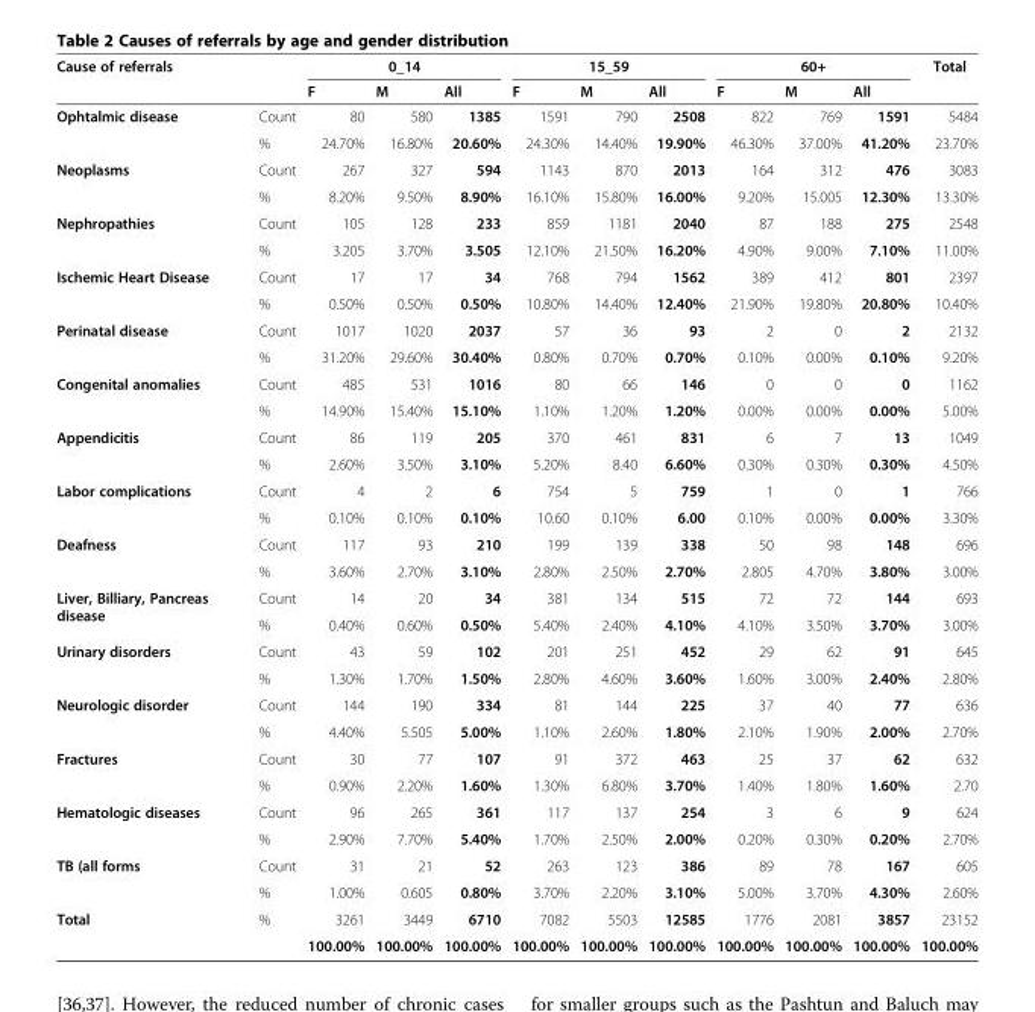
<table><thead><tr><td colspan="2">Cause of referrals</td><td colspan="3">0_14</td><td colspan="3">15_59</td><td colspan="3">60+</td><td rowspan="2">Total</td></tr><tr><td></td><td></td><td>F</td><td>M</td><td>All</td><td>F</td><td>M</td><td>All</td><td>F</td><td>M</td><td>All</td></tr></thead><tbody><tr><td rowspan="2">Ophtalmic disease</td><td>Count</td><td>80</td><td>580</td><td>1385</td><td>1591</td><td>790</td><td>2508</td><td>822</td><td>769</td><td>1591</td><td>5484</td></tr><tr><td>%</td><td>24.70%</td><td>16.80%</td><td>20.60%</td><td>24.30%</td><td>14.40%</td><td>19.90%</td><td>46.30%</td><td>37.00%</td><td>41.20%</td><td>23.70%</td></tr><tr><td rowspan="2">Neoplasms</td><td>Count</td><td>267</td><td>327</td><td>594</td><td>1143</td><td>870</td><td>2013</td><td>164</td><td>312</td><td>476</td><td>3083</td></tr><tr><td>%</td><td>8.20%</td><td>9.50%</td><td>8.90%</td><td>16.10%</td><td>15.80%</td><td>16.00%</td><td>9.20%</td><td>15.005</td><td>12.30%</td><td>13.30%</td></tr><tr><td rowspan="2">Nephropathies</td><td>Count</td><td>105</td><td>128</td><td>233</td><td>859</td><td>1181</td><td>2040</td><td>87</td><td>188</td><td>275</td><td>2548</td></tr><tr><td>%</td><td>3.205</td><td>3.70%</td><td>3.505</td><td>12.10%</td><td>21.50%</td><td>16.20%</td><td>4.90%</td><td>9.00%</td><td>7.10%</td><td>11.00%</td></tr><tr><td rowspan="2">Ischemic Heart Disease</td><td>Count</td><td>17</td><td>17</td><td>34</td><td>768</td><td>794</td><td>1562</td><td>389</td><td>412</td><td>801</td><td>2397</td></tr><tr><td>%</td><td>0.50%</td><td>0.50%</td><td>0.50%</td><td>10.80%</td><td>14.40%</td><td>12.40%</td><td>21.90%</td><td>19.80%</td><td>20.80%</td><td>10.40%</td></tr><tr><td rowspan="2">Perinatal disease</td><td>Count</td><td>1017</td><td>1020</td><td>2037</td><td>57</td><td>36</td><td>93</td><td>2</td><td>0</td><td>2</td><td>2132</td></tr><tr><td>%</td><td>31.20%</td><td>29.60%</td><td>30.40%</td><td>0.80%</td><td>0.70%</td><td>0.70%</td><td>0.10%</td><td>0.00%</td><td>0.10%</td><td>9.20%</td></tr><tr><td rowspan="2">Congenital anomalies</td><td>Count</td><td>485</td><td>531</td><td>1016</td><td>80</td><td>66</td><td>146</td><td>0</td><td>0</td><td>0</td><td>1162</td></tr><tr><td>%</td><td>14.90%</td><td>15.40%</td><td>15.10%</td><td>1.10%</td><td>1.20%</td><td>1.20%</td><td>0.00%</td><td>0.00%</td><td>0.00%</td><td>5.00%</td></tr><tr><td rowspan="2">Appendicitis</td><td>Count</td><td>86</td><td>119</td><td>205</td><td>370</td><td>461</td><td>831</td><td>6</td><td>7</td><td>13</td><td>1049</td></tr><tr><td>%</td><td>2.60%</td><td>3.50%</td><td>3.10%</td><td>5.20%</td><td>8.40</td><td>6.60%</td><td>0.30%</td><td>0.30%</td><td>0.30%</td><td>4.50%</td></tr><tr><td rowspan="2">Labor complications</td><td>Count</td><td>4</td><td>2</td><td>6</td><td>754</td><td>5</td><td>759</td><td>1</td><td>0</td><td>1</td><td>766</td></tr><tr><td>%</td><td>0.10%</td><td>0.10%</td><td>0.10%</td><td>10.60</td><td>0.10%</td><td>6.00</td><td>0.10%</td><td>0.00%</td><td>0.00%</td><td>3.30%</td></tr><tr><td rowspan="2">Deafness</td><td>Count</td><td>117</td><td>93</td><td>210</td><td>199</td><td>139</td><td>338</td><td>50</td><td>98</td><td>148</td><td>696</td></tr><tr><td>%</td><td>3.60%</td><td>2.70%</td><td>3.10%</td><td>2.80%</td><td>2.50%</td><td>2.70%</td><td>2.805</td><td>4.70%</td><td>3.80%</td><td>3.00%</td></tr><tr><td rowspan="2">Liver, Billiary, Pancreas disease</td><td>Count</td><td>14</td><td>20</td><td>34</td><td>381</td><td>134</td><td>515</td><td>72</td><td>72</td><td>144</td><td>693</td></tr><tr><td>%</td><td>0.40%</td><td>0.60%</td><td>0.50%</td><td>5.40%</td><td>2.40%</td><td>4.10%</td><td>4.10%</td><td>3.50%</td><td>3.70%</td><td>3.00%</td></tr><tr><td rowspan="2">Urinary disorders</td><td>Count</td><td>43</td><td>59</td><td>102</td><td>201</td><td>251</td><td>452</td><td>29</td><td>62</td><td>91</td><td>645</td></tr><tr><td>%</td><td>1.30%</td><td>1.70%</td><td>1.50%</td><td>2.80%</td><td>4.60%</td><td>3.60%</td><td>1.60%</td><td>3.00%</td><td>2.40%</td><td>2.80%</td></tr><tr><td rowspan="2">Neurologic disorder</td><td>Count</td><td>144</td><td>190</td><td>334</td><td>81</td><td>144</td><td>225</td><td>37</td><td>40</td><td>77</td><td>636</td></tr><tr><td>%</td><td>4.40%</td><td>5.505</td><td>5.00%</td><td>1.10%</td><td>2.60%</td><td>1.80%</td><td>2.10%</td><td>1.90%</td><td>2.00%</td><td>2.70%</td></tr><tr><td rowspan="2">Fractures</td><td>Count</td><td>30</td><td>77</td><td>107</td><td>91</td><td>372</td><td>463</td><td>25</td><td>37</td><td>62</td><td>632</td></tr><tr><td>%</td><td>0.90%</td><td>2.20%</td><td>1.60%</td><td>1.30%</td><td>6.80%</td><td>3.70%</td><td>1.40%</td><td>1.80%</td><td>1.60%</td><td>2.70</td></tr><tr><td rowspan="2">Hematologic diseases</td><td>Count</td><td>96</td><td>265</td><td>361</td><td>117</td><td>137</td><td>254</td><td>3</td><td>6</td><td>9</td><td>624</td></tr><tr><td>%</td><td>2.90%</td><td>7.70%</td><td>5.40%</td><td>1.70%</td><td>2.50%</td><td>2.00%</td><td>0.20%</td><td>0.30%</td><td>0.20%</td><td>2.70%</td></tr><tr><td rowspan="2">TB (all forms</td><td>Count</td><td>31</td><td>21</td><td>52</td><td>263</td><td>123</td><td>386</td><td>89</td><td>78</td><td>167</td><td>605</td></tr><tr><td>%</td><td>1.00%</td><td>0.605</td><td>0.80%</td><td>3.70%</td><td>2.20%</td><td>3.10%</td><td>5.00%</td><td>3.70%</td><td>4.30%</td><td>2.60%</td></tr><tr><td rowspan="2">Total</td><td>%</td><td>3261</td><td>3449</td><td>6710</td><td>7082</td><td>5503</td><td>12585</td><td>1776</td><td>2081</td><td>3857</td><td>23152</td></tr><tr><td></td><td>100.00%</td><td>100.00%</td><td>100.00%</td><td>100.00%</td><td>100.00%</td><td>100.00%</td><td>100.00%</td><td>100.00%</td><td>100.00%</td><td>100.00%</td></tr></tbody></table>